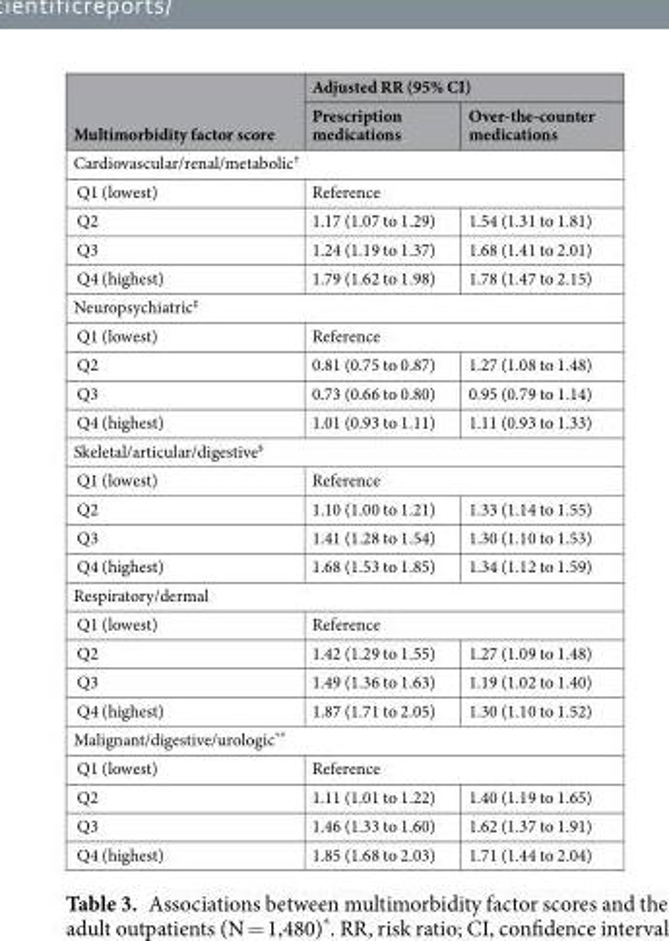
<table><thead><tr><td rowspan="2">Multimorbidity factor score</td><td colspan="2">Adjusted RR (95% CI)</td></tr><tr><td>Prescription medications</td><td>Over-the-counter medications</td></tr></thead><tbody><tr><td colspan="3">Cardiovascular/renal/metabolic<sup>†</sup></td></tr><tr><td>Q1 (lowest)</td><td colspan="2">Reference</td></tr><tr><td>Q2</td><td>1.17 (1.07 to 1.29)</td><td>1.54 (1.31 to 1.81)</td></tr><tr><td>Q3</td><td>1.24 (1.19 to 1.37)</td><td>1.68 (1.41 to 2.01)</td></tr><tr><td>Q4 (highest)</td><td>1.79 (1.62 to 1.98)</td><td>1.78 (1.47 to 2.15)</td></tr><tr><td colspan="3">Neuropsychiatric<sup>‡</sup></td></tr><tr><td>Q1 (lowest)</td><td colspan="2">Reference</td></tr><tr><td>Q2</td><td>0.81 (0.75 to 0.87)</td><td>1.27 (1.08 to 1.48)</td></tr><tr><td>Q3</td><td>0.73 (0.66 to 0.80)</td><td>0.95 (0.79 to 1.14)</td></tr><tr><td>Q4 (highest)</td><td>1.01 (0.93 to 1.11)</td><td>1.11 (0.93 to 1.33)</td></tr><tr><td colspan="3">Skeletal/articular/digestive<sup>§</sup></td></tr><tr><td>Q1 (lowest)</td><td colspan="2">Reference</td></tr><tr><td>Q2</td><td>1.10 (1.00 to 1.21)</td><td>1.33 (1.14 to 1.55)</td></tr><tr><td>Q3</td><td>1.41 (1.28 to 1.54)</td><td>1.30 (1.10 to 1.53)</td></tr><tr><td>Q4 (highest)</td><td>1.68 (1.53 to 1.85)</td><td>1.34 (1.12 to 1.59)</td></tr><tr><td colspan="3">Respiratory/dermal</td></tr><tr><td>Q1 (lowest)</td><td colspan="2">Reference</td></tr><tr><td>Q2</td><td>1.42 (1.29 to 1.55)</td><td>1.27 (1.09 to 1.48)</td></tr><tr><td>Q3</td><td>1.49 (1.36 to 1.63)</td><td>1.19 (1.02 to 1.40)</td></tr><tr><td>Q4 (highest)</td><td>1.87 (1.71 to 2.05)</td><td>1.30 (1.10 to 1.52)</td></tr><tr><td colspan="3">Malignant/digestive/urologic**</td></tr><tr><td>Q1 (lowest)</td><td colspan="2">Reference</td></tr><tr><td>Q2</td><td>1.11 (1.01 to 1.22)</td><td>1.40 (1.19 to 1.65)</td></tr><tr><td>Q3</td><td>1.46 (1.33 to 1.60)</td><td>1.62 (1.37 to 1.91)</td></tr><tr><td>Q4 (highest)</td><td>1.85 (1.68 to 2.03)</td><td>1.71 (1.44 to 2.04)</td></tr></tbody></table>